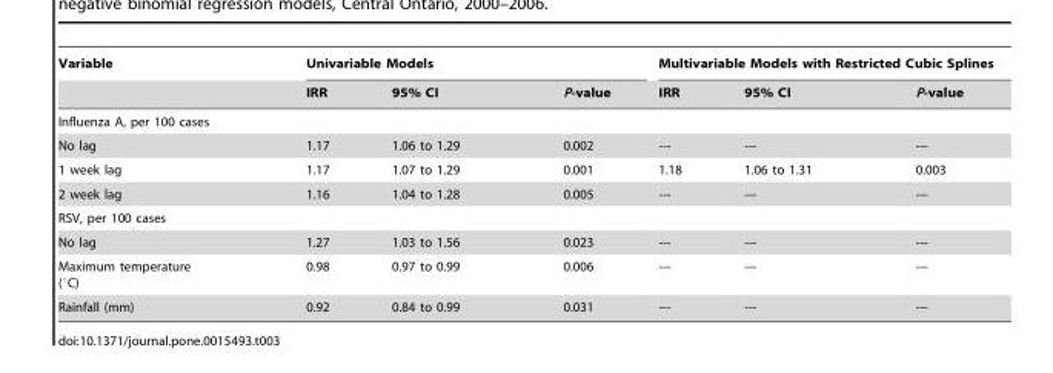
<table><thead><tr><td rowspan="2">Variable</td><td colspan="3">Univariable Models</td><td colspan="3">Multivariable Models with Restricted Cubic Splines</td></tr><tr><td>IRR</td><td>95% CI</td><td>P-value</td><td>IRR</td><td>95% CI</td><td>P-value</td></tr></thead><tbody><tr><td colspan="7">Influenza A, per 100 cases</td></tr><tr><td>No lag</td><td>1.17</td><td>1.06 to 1.29</td><td>0.002</td><td>---</td><td>---</td><td>---</td></tr><tr><td>1 week lag</td><td>1.17</td><td>1.07 to 1.29</td><td>0.001</td><td>1.18</td><td>1.06 to 1.31</td><td>0.003</td></tr><tr><td>2 week lag</td><td>1.16</td><td>1.04 to 1.28</td><td>0.005</td><td>---</td><td>---</td><td>---</td></tr><tr><td colspan="7">RSV, per 100 cases</td></tr><tr><td>No lag</td><td>1.27</td><td>1.03 to 1.56</td><td>0.023</td><td>---</td><td>---</td><td>---</td></tr><tr><td>Maximum temperature (°C)</td><td>0.98</td><td>0.97 to 0.99</td><td>0.006</td><td>---</td><td>---</td><td>---</td></tr><tr><td>Rainfall (mm)</td><td>0.92</td><td>0.84 to 0.99</td><td>0.031</td><td>---</td><td>---</td><td>---</td></tr></tbody></table>